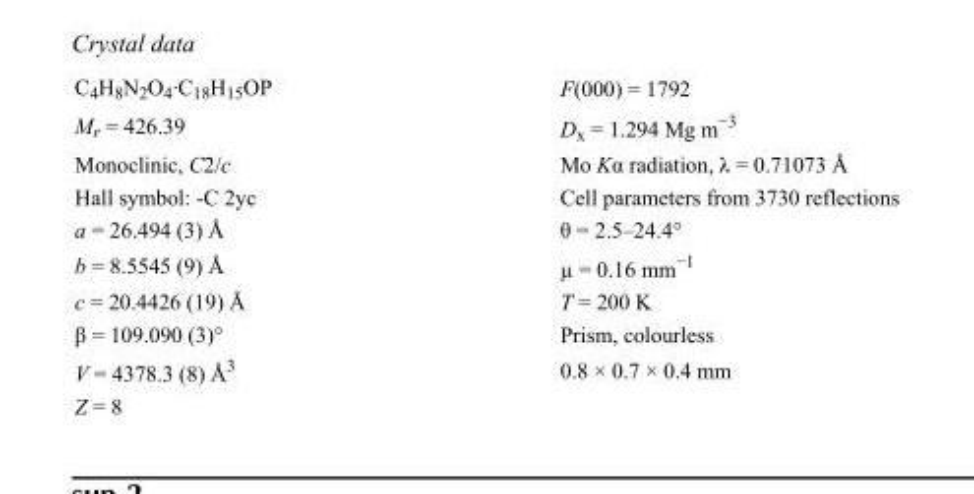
<table><tbody><tr><td>C<sub>4</sub>H<sub>8</sub>N<sub>2</sub>O<sub>4</sub>·C<sub>18</sub>H<sub>15</sub>OP</td><td>F(000) = 1792</td></tr><tr><td>M<sub>r</sub> = 426.39</td><td>D<sub>x</sub> = 1.294 Mg m<sup>−3</sup></td></tr><tr><td>Monoclinic, C2/c</td><td>Mo Kα radiation, λ = 0.71073 Å</td></tr><tr><td>Hall symbol: -C 2yc</td><td>Cell parameters from 3730 reflections</td></tr><tr><td>a = 26.494 (3) Å</td><td>θ = 2.5–24.4°</td></tr><tr><td>b = 8.5545 (9) Å</td><td>µ = 0.16 mm<sup>−1</sup></td></tr><tr><td>c = 20.4426 (19) Å</td><td>T = 200 K</td></tr><tr><td>β = 109.090 (3)°</td><td>Prism, colourless</td></tr><tr><td>V = 4378.3 (8) Å<sup>3</sup></td><td>0.8 × 0.7 × 0.4 mm</td></tr><tr><td>Z = 8</td><td></td></tr></tbody></table>